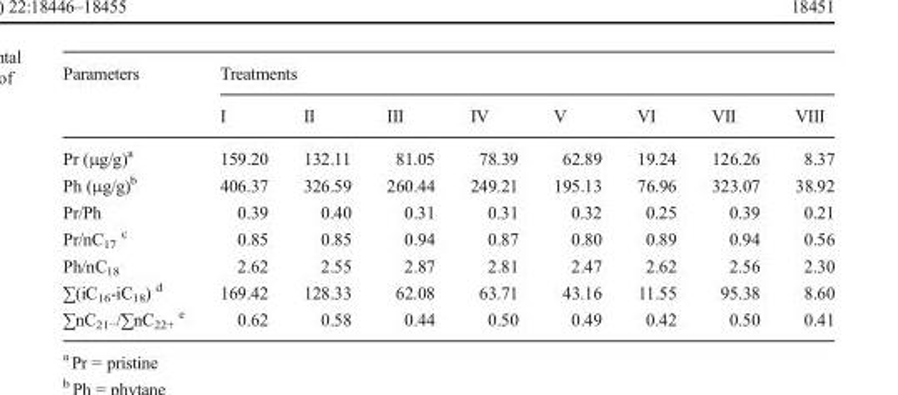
<table><thead><tr><td rowspan="2">Parameters</td><td colspan="8">Treatments</td></tr><tr><td>I</td><td>II</td><td>III</td><td>IV</td><td>V</td><td>VI</td><td>VII</td><td>VIII</td></tr></thead><tbody><tr><td>Pr (μg/g)<sup>a</sup></td><td>159.20</td><td>132.11</td><td>81.05</td><td>78.39</td><td>62.89</td><td>19.24</td><td>126.26</td><td>8.37</td></tr><tr><td>Ph (μg/g)<sup>b</sup></td><td>406.37</td><td>326.59</td><td>260.44</td><td>249.21</td><td>195.13</td><td>76.96</td><td>323.07</td><td>38.92</td></tr><tr><td>Pr/Ph</td><td>0.39</td><td>0.40</td><td>0.31</td><td>0.31</td><td>0.32</td><td>0.25</td><td>0.39</td><td>0.21</td></tr><tr><td>Pr/nC<sub>17</sub> <sup>c</sup></td><td>0.85</td><td>0.85</td><td>0.94</td><td>0.87</td><td>0.80</td><td>0.89</td><td>0.94</td><td>0.56</td></tr><tr><td>Ph/nC<sub>18</sub></td><td>2.62</td><td>2.55</td><td>2.87</td><td>2.81</td><td>2.47</td><td>2.62</td><td>2.56</td><td>2.30</td></tr><tr><td>∑(iC<sub>16</sub>-iC<sub>18</sub>) <sup>d</sup></td><td>169.42</td><td>128.33</td><td>62.08</td><td>63.71</td><td>43.16</td><td>11.55</td><td>95.38</td><td>8.60</td></tr><tr><td>∑nC<sub>21−</sub>/∑nC<sub>22+</sub> <sup>e</sup></td><td>0.62</td><td>0.58</td><td>0.44</td><td>0.50</td><td>0.49</td><td>0.42</td><td>0.50</td><td>0.41</td></tr></tbody></table>